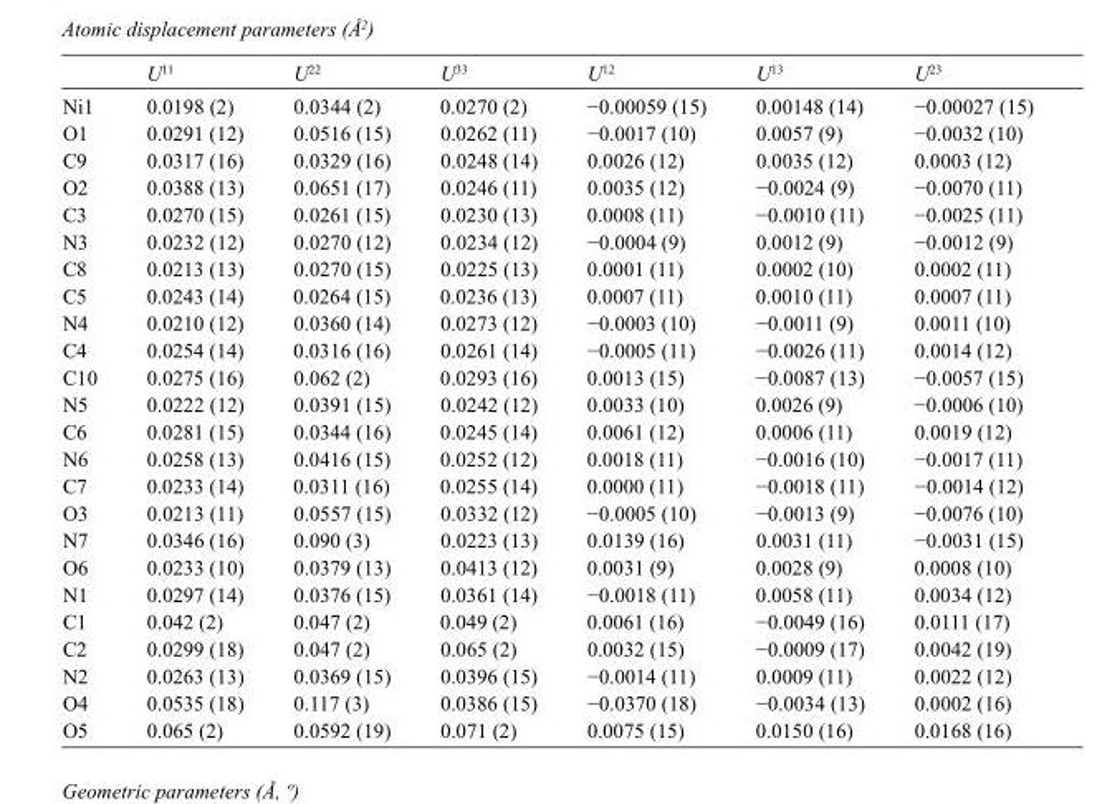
<table><thead><tr><td></td><td>U<sup>11</sup></td><td>U<sup>22</sup></td><td>U<sup>33</sup></td><td>U<sup>12</sup></td><td>U<sup>13</sup></td><td>U<sup>23</sup></td></tr></thead><tbody><tr><td>Ni1</td><td>0.0198 (2)</td><td>0.0344 (2)</td><td>0.0270 (2)</td><td>−0.00059 (15)</td><td>0.00148 (14)</td><td>−0.00027 (15)</td></tr><tr><td>O1</td><td>0.0291 (12)</td><td>0.0516 (15)</td><td>0.0262 (11)</td><td>−0.0017 (10)</td><td>0.0057 (9)</td><td>−0.0032 (10)</td></tr><tr><td>C9</td><td>0.0317 (16)</td><td>0.0329 (16)</td><td>0.0248 (14)</td><td>0.0026 (12)</td><td>0.0035 (12)</td><td>0.0003 (12)</td></tr><tr><td>O2</td><td>0.0388 (13)</td><td>0.0651 (17)</td><td>0.0246 (11)</td><td>0.0035 (12)</td><td>−0.0024 (9)</td><td>−0.0070 (11)</td></tr><tr><td>C3</td><td>0.0270 (15)</td><td>0.0261 (15)</td><td>0.0230 (13)</td><td>0.0008 (11)</td><td>−0.0010 (11)</td><td>−0.0025 (11)</td></tr><tr><td>N3</td><td>0.0232 (12)</td><td>0.0270 (12)</td><td>0.0234 (12)</td><td>−0.0004 (9)</td><td>0.0012 (9)</td><td>−0.0012 (9)</td></tr><tr><td>C8</td><td>0.0213 (13)</td><td>0.0270 (15)</td><td>0.0225 (13)</td><td>0.0001 (11)</td><td>0.0002 (10)</td><td>0.0002 (11)</td></tr><tr><td>C5</td><td>0.0243 (14)</td><td>0.0264 (15)</td><td>0.0236 (13)</td><td>0.0007 (11)</td><td>0.0010 (11)</td><td>0.0007 (11)</td></tr><tr><td>N4</td><td>0.0210 (12)</td><td>0.0360 (14)</td><td>0.0273 (12)</td><td>−0.0003 (10)</td><td>−0.0011 (9)</td><td>0.0011 (10)</td></tr><tr><td>C4</td><td>0.0254 (14)</td><td>0.0316 (16)</td><td>0.0261 (14)</td><td>−0.0005 (11)</td><td>−0.0026 (11)</td><td>0.0014 (12)</td></tr><tr><td>C10</td><td>0.0275 (16)</td><td>0.062 (2)</td><td>0.0293 (16)</td><td>0.0013 (15)</td><td>−0.0087 (13)</td><td>−0.0057 (15)</td></tr><tr><td>N5</td><td>0.0222 (12)</td><td>0.0391 (15)</td><td>0.0242 (12)</td><td>0.0033 (10)</td><td>0.0026 (9)</td><td>−0.0006 (10)</td></tr><tr><td>C6</td><td>0.0281 (15)</td><td>0.0344 (16)</td><td>0.0245 (14)</td><td>0.0061 (12)</td><td>0.0006 (11)</td><td>0.0019 (12)</td></tr><tr><td>N6</td><td>0.0258 (13)</td><td>0.0416 (15)</td><td>0.0252 (12)</td><td>0.0018 (11)</td><td>−0.0016 (10)</td><td>−0.0017 (11)</td></tr><tr><td>C7</td><td>0.0233 (14)</td><td>0.0311 (16)</td><td>0.0255 (14)</td><td>0.0000 (11)</td><td>−0.0018 (11)</td><td>−0.0014 (12)</td></tr><tr><td>O3</td><td>0.0213 (11)</td><td>0.0557 (15)</td><td>0.0332 (12)</td><td>−0.0005 (10)</td><td>−0.0013 (9)</td><td>−0.0076 (10)</td></tr><tr><td>N7</td><td>0.0346 (16)</td><td>0.090 (3)</td><td>0.0223 (13)</td><td>0.0139 (16)</td><td>0.0031 (11)</td><td>−0.0031 (15)</td></tr><tr><td>O6</td><td>0.0233 (10)</td><td>0.0379 (13)</td><td>0.0413 (12)</td><td>0.0031 (9)</td><td>0.0028 (9)</td><td>0.0008 (10)</td></tr><tr><td>N1</td><td>0.0297 (14)</td><td>0.0376 (15)</td><td>0.0361 (14)</td><td>−0.0018 (11)</td><td>0.0058 (11)</td><td>0.0034 (12)</td></tr><tr><td>C1</td><td>0.042 (2)</td><td>0.047 (2)</td><td>0.049 (2)</td><td>0.0061 (16)</td><td>−0.0049 (16)</td><td>0.0111 (17)</td></tr><tr><td>C2</td><td>0.0299 (18)</td><td>0.047 (2)</td><td>0.065 (2)</td><td>0.0032 (15)</td><td>−0.0009 (17)</td><td>0.0042 (19)</td></tr><tr><td>N2</td><td>0.0263 (13)</td><td>0.0369 (15)</td><td>0.0396 (15)</td><td>−0.0014 (11)</td><td>0.0009 (11)</td><td>0.0022 (12)</td></tr><tr><td>O4</td><td>0.0535 (18)</td><td>0.117 (3)</td><td>0.0386 (15)</td><td>−0.0370 (18)</td><td>−0.0034 (13)</td><td>0.0002 (16)</td></tr><tr><td>O5</td><td>0.065 (2)</td><td>0.0592 (19)</td><td>0.071 (2)</td><td>0.0075 (15)</td><td>0.0150 (16)</td><td>0.0168 (16)</td></tr></tbody></table>